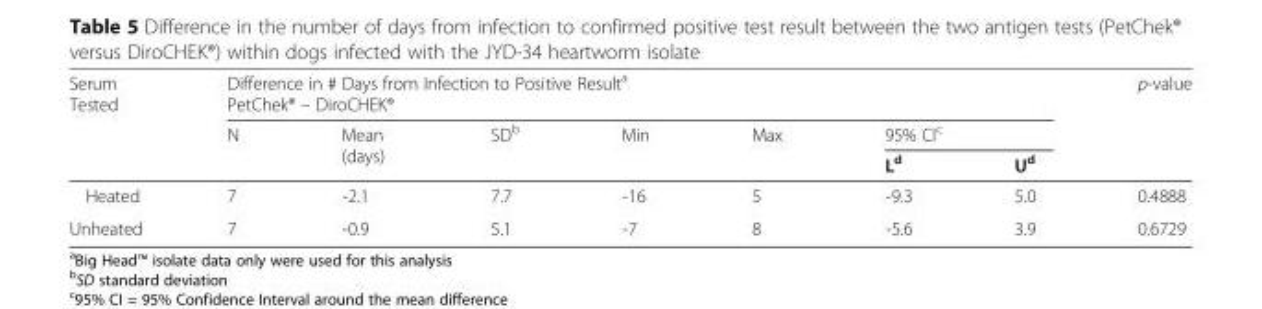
<table><thead><tr><td rowspan="3">Serum Tested</td><td colspan="7">Difference in # Days from Infection to Positive Result<sup>a</sup> PetChek® – DiroCHEK®</td><td rowspan="3">p-value</td></tr><tr><td rowspan="2">N</td><td rowspan="2">Mean (days)</td><td rowspan="2">SD<sup>b</sup></td><td rowspan="2">Min</td><td rowspan="2">Max</td><td colspan="2">95% CI<sup>c</sup></td></tr><tr><td>L<sup>d</sup></td><td>U<sup>d</sup></td></tr></thead><tbody><tr><td>Heated</td><td>7</td><td>˗2.1</td><td>7.7</td><td>˗16</td><td>5</td><td>˗9.3</td><td>5.0</td><td>0.4888</td></tr><tr><td>Unheated</td><td>7</td><td>˗0.9</td><td>5.1</td><td>˗7</td><td>8</td><td>˗5.6</td><td>3.9</td><td>0.6729</td></tr></tbody></table>